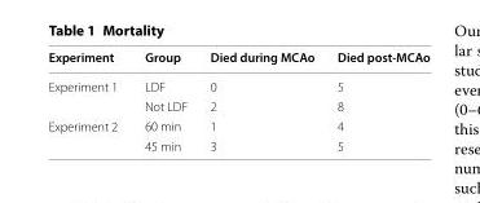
<table><thead><tr><td>Experiment</td><td>Group</td><td>Died during MCAo</td><td>Died post-MCAo</td></tr></thead><tbody><tr><td rowspan="2">Experiment 1</td><td>LDF</td><td>0</td><td>5</td></tr><tr><td>Not LDF</td><td>2</td><td>8</td></tr><tr><td rowspan="2">Experiment 2</td><td>60 min</td><td>1</td><td>4</td></tr><tr><td>45 min</td><td>3</td><td>5</td></tr></tbody></table>